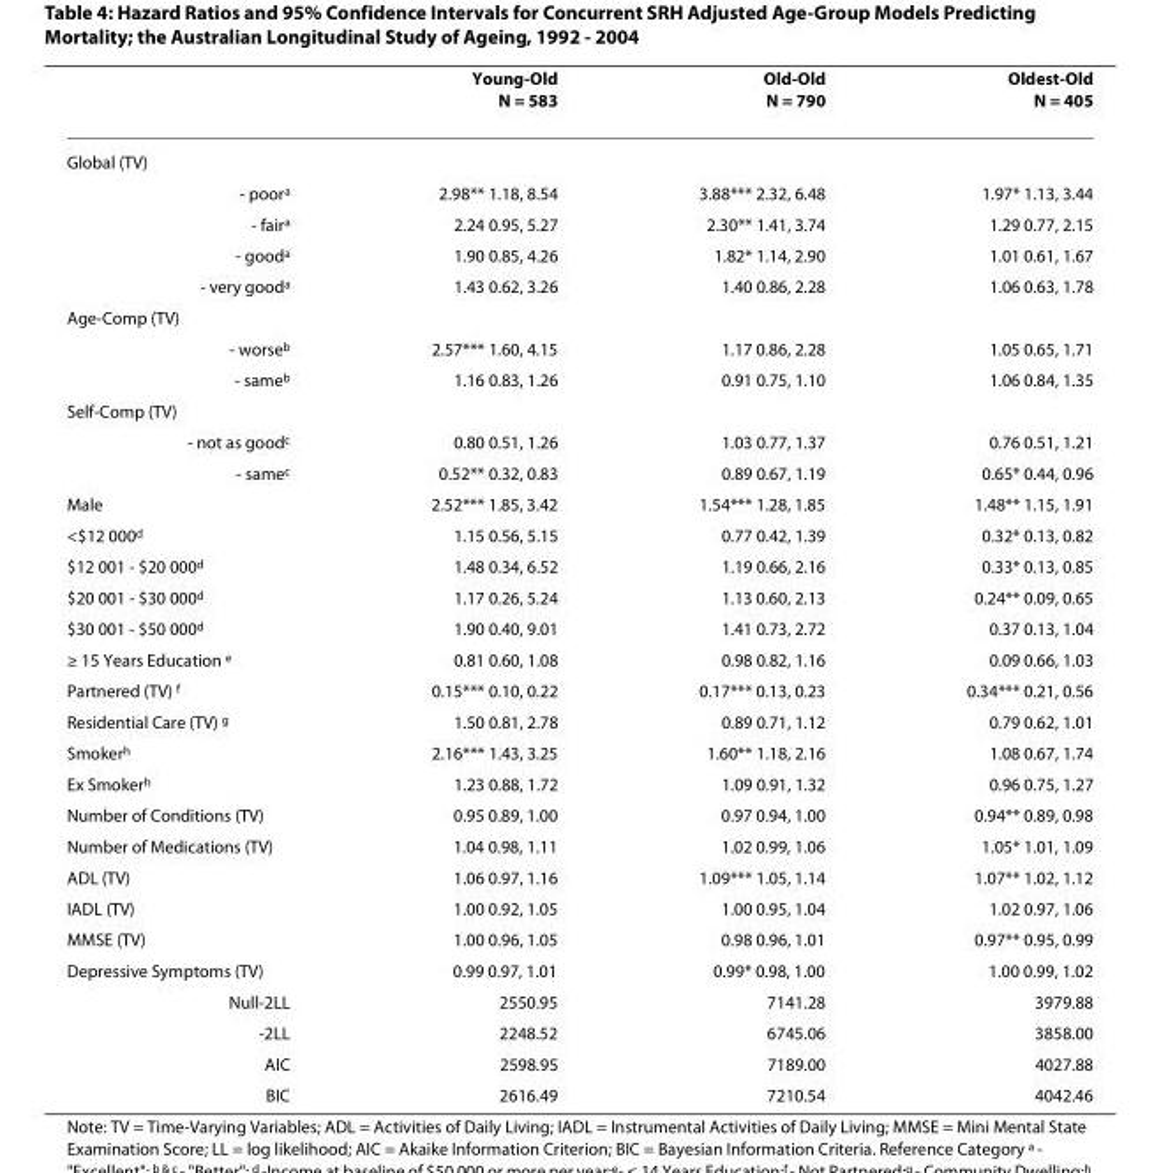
<table><thead><tr><td></td><td>Young-Old N = 583</td><td>Old-Old N = 790</td><td>Oldest-Old N = 405</td></tr></thead><tbody><tr><td colspan="4">Global (TV)</td></tr><tr><td>- poor<sup>a</sup></td><td>2.98** 1.18, 8.54</td><td>3.88*** 2.32, 6.48</td><td>1.97* 1.13, 3.44</td></tr><tr><td>- fair<sup>a</sup></td><td>2.24 0.95, 5.27</td><td>2.30** 1.41, 3.74</td><td>1.29 0.77, 2.15</td></tr><tr><td>- good<sup>a</sup></td><td>1.90 0.85, 4.26</td><td>1.82* 1.14, 2.90</td><td>1.01 0.61, 1.67</td></tr><tr><td>- very good<sup>a</sup></td><td>1.43 0.62, 3.26</td><td>1.40 0.86, 2.28</td><td>1.06 0.63, 1.78</td></tr><tr><td colspan="4">Age-Comp (TV)</td></tr><tr><td>- worse<sup>b</sup></td><td>2.57*** 1.60, 4.15</td><td>1.17 0.86, 2.28</td><td>1.05 0.65, 1.71</td></tr><tr><td>- same<sup>b</sup></td><td>1.16 0.83, 1.26</td><td>0.91 0.75, 1.10</td><td>1.06 0.84, 1.35</td></tr><tr><td colspan="4">Self-Comp (TV)</td></tr><tr><td>- not as good<sup>c</sup></td><td>0.80 0.51, 1.26</td><td>1.03 0.77, 1.37</td><td>0.76 0.51, 1.21</td></tr><tr><td>- same<sup>c</sup></td><td>0.52** 0.32, 0.83</td><td>0.89 0.67, 1.19</td><td>0.65* 0.44, 0.96</td></tr><tr><td>Male</td><td>2.52*** 1.85, 3.42</td><td>1.54*** 1.28, 1.85</td><td>1.48** 1.15, 1.91</td></tr><tr><td>&lt;$12 000<sup>d</sup></td><td>1.15 0.56, 5.15</td><td>0.77 0.42, 1.39</td><td>0.32* 0.13, 0.82</td></tr><tr><td>$12 001 - $20 000<sup>d</sup></td><td>1.48 0.34, 6.52</td><td>1.19 0.66, 2.16</td><td>0.33* 0.13, 0.85</td></tr><tr><td>$20 001 - $30 000<sup>d</sup></td><td>1.17 0.26, 5.24</td><td>1.13 0.60, 2.13</td><td>0.24** 0.09, 0.65</td></tr><tr><td>$30 001 - $50 000<sup>d</sup></td><td>1.90 0.40, 9.01</td><td>1.41 0.73, 2.72</td><td>0.37 0.13, 1.04</td></tr><tr><td>≥ 15 Years Education <sup>e</sup></td><td>0.81 0.60, 1.08</td><td>0.98 0.82, 1.16</td><td>0.09 0.66, 1.03</td></tr><tr><td>Partnered (TV) <sup>f</sup></td><td>0.15*** 0.10, 0.22</td><td>0.17*** 0.13, 0.23</td><td>0.34*** 0.21, 0.56</td></tr><tr><td>Residential Care (TV) <sup>g</sup></td><td>1.50 0.81, 2.78</td><td>0.89 0.71, 1.12</td><td>0.79 0.62, 1.01</td></tr><tr><td>Smoker<sup>h</sup></td><td>2.16*** 1.43, 3.25</td><td>1.60** 1.18, 2.16</td><td>1.08 0.67, 1.74</td></tr><tr><td>Ex Smoker<sup>h</sup></td><td>1.23 0.88, 1.72</td><td>1.09 0.91, 1.32</td><td>0.96 0.75, 1.27</td></tr><tr><td>Number of Conditions (TV)</td><td>0.95 0.89, 1.00</td><td>0.97 0.94, 1.00</td><td>0.94** 0.89, 0.98</td></tr><tr><td>Number of Medications (TV)</td><td>1.04 0.98, 1.11</td><td>1.02 0.99, 1.06</td><td>1.05* 1.01, 1.09</td></tr><tr><td>ADL (TV)</td><td>1.06 0.97, 1.16</td><td>1.09*** 1.05, 1.14</td><td>1.07** 1.02, 1.12</td></tr><tr><td>IADL (TV)</td><td>1.00 0.92, 1.05</td><td>1.00 0.95, 1.04</td><td>1.02 0.97, 1.06</td></tr><tr><td>MMSE (TV)</td><td>1.00 0.96, 1.05</td><td>0.98 0.96, 1.01</td><td>0.97** 0.95, 0.99</td></tr><tr><td>Depressive Symptoms (TV)</td><td>0.99 0.97, 1.01</td><td>0.99* 0.98, 1.00</td><td>1.00 0.99, 1.02</td></tr><tr><td>Null-2LL</td><td>2550.95</td><td>7141.28</td><td>3979.88</td></tr><tr><td>-2LL</td><td>2248.52</td><td>6745.06</td><td>3858.00</td></tr><tr><td>AIC</td><td>2598.95</td><td>7189.00</td><td>4027.88</td></tr><tr><td>BIC</td><td>2616.49</td><td>7210.54</td><td>4042.46</td></tr></tbody></table>